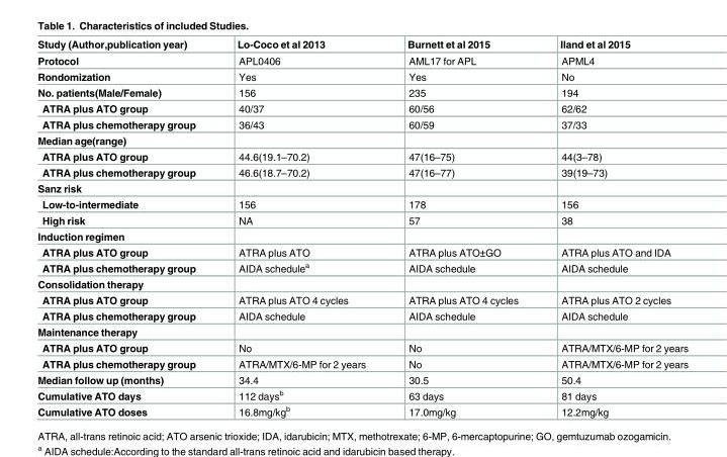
<table><thead><tr><td>Study (Author,publication year)</td><td>Lo-Coco et al 2013</td><td>Burnett et al 2015</td><td>Iland et al 2015</td></tr></thead><tbody><tr><td>Protocol</td><td>APL0406</td><td>AML17 for APL</td><td>APML4</td></tr><tr><td>Rondomization</td><td>Yes</td><td>Yes</td><td>No</td></tr><tr><td>No. patients(Male/Female)</td><td>156</td><td>235</td><td>194</td></tr><tr><td>ATRA plus ATO group</td><td>40/37</td><td>60/56</td><td>62/62</td></tr><tr><td>ATRA plus chemotherapy group</td><td>36/43</td><td>60/59</td><td>37/33</td></tr><tr><td colspan="4">Median age(range)</td></tr><tr><td>ATRA plus ATO group</td><td>44.6(19.1–70.2)</td><td>47(16–75)</td><td>44(3–78)</td></tr><tr><td>ATRA plus chemotherapy group</td><td>46.6(18.7–70.2)</td><td>47(16–77)</td><td>39(19–73)</td></tr><tr><td colspan="4">Sanz risk</td></tr><tr><td>Low-to-intermediate</td><td>156</td><td>178</td><td>156</td></tr><tr><td>High risk</td><td>NA</td><td>57</td><td>38</td></tr><tr><td colspan="4">Induction regimen</td></tr><tr><td>ATRA plus ATO group</td><td>ATRA plus ATO</td><td>ATRA plus ATO±GO</td><td>ATRA plus ATO and IDA</td></tr><tr><td>ATRA plus chemotherapy group</td><td>AIDA schedule<sup>a</sup></td><td>AIDA schedule</td><td>AIDA schedule</td></tr><tr><td colspan="4">Consolidation therapy</td></tr><tr><td>ATRA plus ATO group</td><td>ATRA plus ATO 4 cycles</td><td>ATRA plus ATO 4 cycles</td><td>ATRA plus ATO 2 cycles</td></tr><tr><td>ATRA plus chemotherapy group</td><td>AIDA schedule</td><td>AIDA schedule</td><td>AIDA schedule</td></tr><tr><td colspan="4">Maintenance therapy</td></tr><tr><td>ATRA plus ATO group</td><td>No</td><td>No</td><td>ATRA/MTX/6-MP for 2 years</td></tr><tr><td>ATRA plus chemotherapy group</td><td>ATRA/MTX/6-MP for 2 years</td><td>No</td><td>ATRA/MTX/6-MP for 2 years</td></tr><tr><td>Median follow up (months)</td><td>34.4</td><td>30.5</td><td>50.4</td></tr><tr><td>Cumulative ATO days</td><td>112 days<sup>b</sup></td><td>63 days</td><td>81 days</td></tr><tr><td>Cumulative ATO doses</td><td>16.8mg/kg<sup>b</sup></td><td>17.0mg/kg</td><td>12.2mg/kg</td></tr></tbody></table>